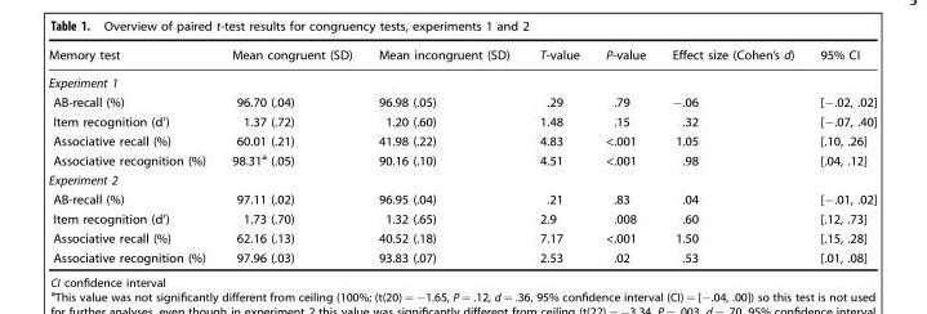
<table><thead><tr><td>Memory test</td><td>Mean congruent (SD)</td><td>Mean incongruent (SD)</td><td>T-value</td><td>P-value</td><td>Effect size (Cohen’s d)</td><td>95% CI</td></tr></thead><tbody><tr><td colspan="7">Experiment 1</td></tr><tr><td>AB-recall (%)</td><td>96.70 (.04)</td><td>96.98 (.05)</td><td>.29</td><td>.79</td><td>−.06</td><td>[−.02, .02]</td></tr><tr><td>Item recognition (d′)</td><td>1.37 (.72)</td><td>1.20 (.60)</td><td>1.48</td><td>.15</td><td>.32</td><td>[−.07, .40]</td></tr><tr><td>Associative recall (%)</td><td>60.01 (.21)</td><td>41.98 (.22)</td><td>4.83</td><td>&lt;.001</td><td>1.05</td><td>[.10, .26]</td></tr><tr><td>Associative recognition (%)</td><td>98.31<sup>a</sup> (.05)</td><td>90.16 (.10)</td><td>4.51</td><td>&lt;.001</td><td>.98</td><td>[.04, .12]</td></tr><tr><td colspan="7">Experiment 2</td></tr><tr><td>AB-recall (%)</td><td>97.11 (.02)</td><td>96.95 (.04)</td><td>.21</td><td>.83</td><td>.04</td><td>[−.01, .02]</td></tr><tr><td>Item recognition (d′)</td><td>1.73 (.70)</td><td>1.32 (.65)</td><td>2.9</td><td>.008</td><td>.60</td><td>[.12, .73]</td></tr><tr><td>Associative recall (%)</td><td>62.16 (.13)</td><td>40.52 (.18)</td><td>7.17</td><td>&lt;.001</td><td>1.50</td><td>[.15, .28]</td></tr><tr><td>Associative recognition (%)</td><td>97.96 (.03)</td><td>93.83 (.07)</td><td>2.53</td><td>.02</td><td>.53</td><td>[.01, .08]</td></tr></tbody></table>